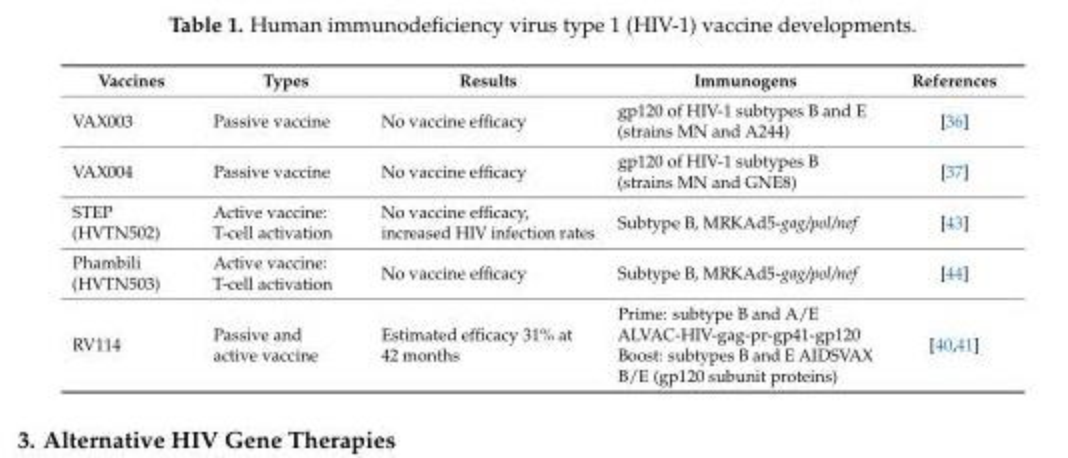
<table><thead><tr><td>Vaccines</td><td>Types</td><td>Results</td><td>Immunogens</td><td>References</td></tr></thead><tbody><tr><td>VAX003</td><td>Passive vaccine</td><td>No vaccine efficacy</td><td>gp120 of HIV-1 subtypes B and E (strains MN and A244)</td><td>[36]</td></tr><tr><td>VAX004</td><td>Passive vaccine</td><td>No vaccine efficacy</td><td>gp120 of HIV-1 subtypes B (strains MN and GNE8)</td><td>[37]</td></tr><tr><td>STEP (HVTN502)</td><td>Active vaccine: T-cell activation</td><td>No vaccine efficacy, increased HIV infection rates</td><td>Subtype B, MRKAd5-gag/pol/nef</td><td>[43]</td></tr><tr><td>Phambili (HVTN503)</td><td>Active vaccine: T-cell activation</td><td>No vaccine efficacy</td><td>Subtype B, MRKAd5-gag/pol/nef</td><td>[44]</td></tr><tr><td>RV114</td><td>Passive and active vaccine</td><td>Estimated efficacy 31% at 42 months</td><td>Prime: subtype B and A/E ALVAC-HIV-gag-pr-gp41-gp120 Boost: subtypes B and E AIDSVAX B/E (gp120 subunit proteins)</td><td>[40,41]</td></tr></tbody></table>